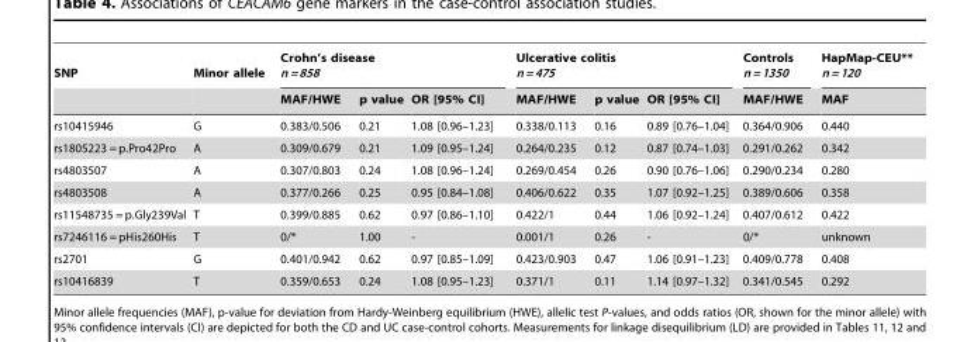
<table><thead><tr><td rowspan="2">SNP</td><td rowspan="2">Minor allele</td><td colspan="3">Crohn’s disease n = 858</td><td colspan="3">Ulcerative colitis n = 475</td><td rowspan="2">Controls n = 1350 MAF/HWE</td><td rowspan="2">HapMap-CEU** n = 120 MAF</td></tr><tr><td>MAF/HWE</td><td>p value</td><td>OR [95% CI]</td><td>MAF/HWE</td><td>p value</td><td>OR [95% CI]</td></tr></thead><tbody><tr><td>rs10415946</td><td>G</td><td>0.383/0.506</td><td>0.21</td><td>1.08 [0.96–1.23]</td><td>0.338/0.113</td><td>0.16</td><td>0.89 [0.76–1.04]</td><td>0.364/0.906</td><td>0.440</td></tr><tr><td>rs1805223 = p.Pro42Pro</td><td>A</td><td>0.309/0.679</td><td>0.21</td><td>1.09 [0.95–1.24]</td><td>0.264/0.235</td><td>0.12</td><td>0.87 [0.74–1.03]</td><td>0.291/0.262</td><td>0.342</td></tr><tr><td>rs4803507</td><td>A</td><td>0.307/0.803</td><td>0.24</td><td>1.08 [0.96–1.24]</td><td>0.269/0.454</td><td>0.26</td><td>0.90 [0.76–1.06]</td><td>0.290/0.234</td><td>0.280</td></tr><tr><td>rs4803508</td><td>A</td><td>0.377/0.266</td><td>0.25</td><td>0.95 [0.84–1.08]</td><td>0.406/0.622</td><td>0.35</td><td>1.07 [0.92–1.25]</td><td>0.389/0.606</td><td>0.358</td></tr><tr><td>rs11548735 = p.Gly239Val</td><td>T</td><td>0.399/0.885</td><td>0.62</td><td>0.97 [0.86–1.10]</td><td>0.422/1</td><td>0.44</td><td>1.06 [0.92–1.24]</td><td>0.407/0.612</td><td>0.422</td></tr><tr><td>rs7246116 = pHis260His</td><td>T</td><td>0/*</td><td>1.00</td><td>-</td><td>0.001/1</td><td>0.26</td><td>-</td><td>0/*</td><td>unknown</td></tr><tr><td>rs2701</td><td>G</td><td>0.401/0.942</td><td>0.62</td><td>0.97 [0.85–1.09]</td><td>0.423/0.903</td><td>0.47</td><td>1.06 [0.91–1.23]</td><td>0.409/0.778</td><td>0.408</td></tr><tr><td>rs10416839</td><td>T</td><td>0.359/0.653</td><td>0.24</td><td>1.08 [0.95–1.23]</td><td>0.371/1</td><td>0.11</td><td>1.14 [0.97–1.32]</td><td>0.341/0.545</td><td>0.292</td></tr></tbody></table>